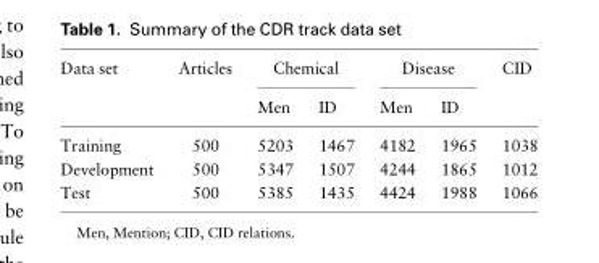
<table><thead><tr><td rowspan="2">Data set</td><td rowspan="2">Articles</td><td colspan="2">Chemical</td><td colspan="2">Disease</td><td rowspan="2">CID</td></tr><tr><td>Men</td><td>ID</td><td>Men</td><td>ID</td></tr></thead><tbody><tr><td>Training</td><td>500</td><td>5203</td><td>1467</td><td>4182</td><td>1965</td><td>1038</td></tr><tr><td>Development</td><td>500</td><td>5347</td><td>1507</td><td>4244</td><td>1865</td><td>1012</td></tr><tr><td>Test</td><td>500</td><td>5385</td><td>1435</td><td>4424</td><td>1988</td><td>1066</td></tr></tbody></table>